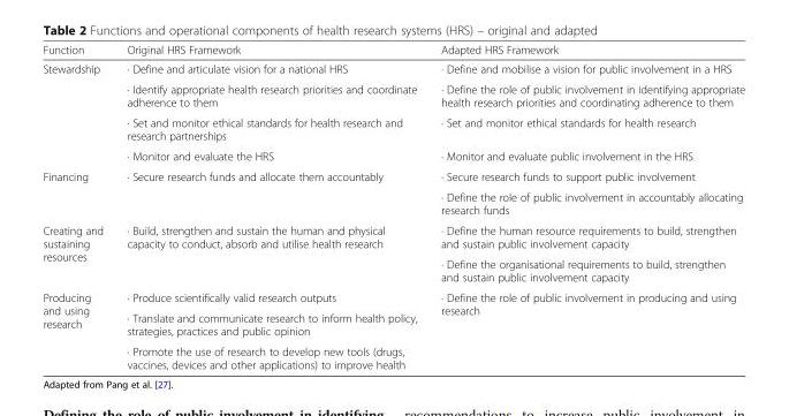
<table><thead><tr><td>Function</td><td>Original HRS Framework</td><td>Adapted HRS Framework</td></tr></thead><tbody><tr><td rowspan="4">Stewardship</td><td>∙ Define and articulate vision for a national HRS</td><td>∙ Define and mobilise a vision for public involvement in a HRS</td></tr><tr><td>∙ Identify appropriate health research priorities and coordinate adherence to them</td><td>∙ Define the role of public involvement in identifying appropriate health research priorities and coordinating adherence to them</td></tr><tr><td>∙ Set and monitor ethical standards for health research and research partnerships</td><td>∙ Set and monitor ethical standards for health research</td></tr><tr><td>∙ Monitor and evaluate the HRS</td><td>∙ Monitor and evaluate public involvement in the HRS</td></tr><tr><td rowspan="2">Financing</td><td rowspan="2">∙ Secure research funds and allocate them accountably</td><td>∙ Secure research funds to support public involvement</td></tr><tr><td>∙ Define the role of public involvement in accountably allocating research funds</td></tr><tr><td rowspan="2">Creating and sustaining resources</td><td rowspan="2">∙ Build, strengthen and sustain the human and physical capacity to conduct, absorb and utilise health research</td><td>∙ Define the human resource requirements to build, strengthen and sustain public involvement capacity</td></tr><tr><td>∙ Define the organisational requirements to build, strengthen and sustain public involvement capacity</td></tr><tr><td rowspan="3">Producing and using research</td><td>∙ Produce scientifically valid research outputs</td><td rowspan="3">∙ Define the role of public involvement in producing and using research</td></tr><tr><td>∙ Translate and communicate research to inform health policy, strategies, practices and public opinion</td></tr><tr><td>∙ Promote the use of research to develop new tools (drugs, vaccines, devices and other applications) to improve health</td></tr></tbody></table>